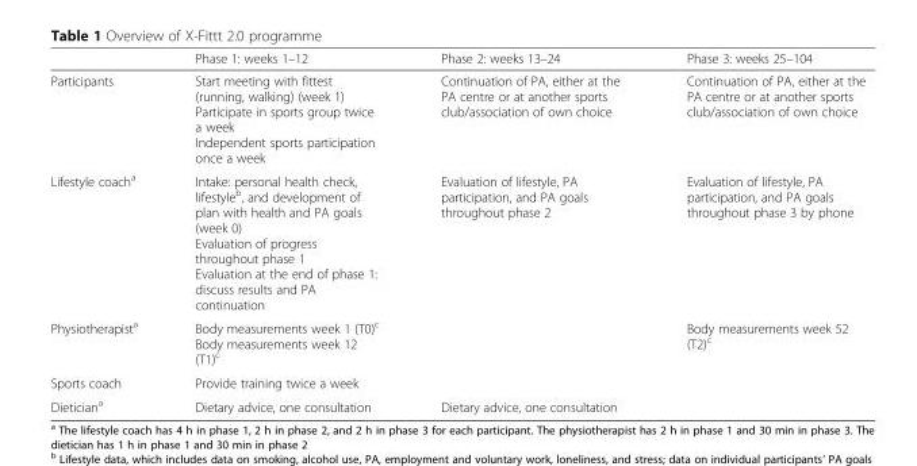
<table><thead><tr><td></td><td>Phase 1: weeks 1–12</td><td>Phase 2: weeks 13–24</td><td>Phase 3: weeks 25–104</td></tr></thead><tbody><tr><td>Participants</td><td>Start meeting with fittest (running, walking) (week 1) Participate in sports group twice a week Independent sports participation once a week</td><td>Continuation of PA, either at the PA centre or at another sports club/association of own choice</td><td>Continuation of PA, either at the PA centre or at another sports club/association of own choice</td></tr><tr><td>Lifestyle coach<sup>a</sup></td><td>Intake: personal health check, lifestyle<sup>b</sup>, and development of plan with health and PA goals (week 0) Evaluation of progress throughout phase 1 Evaluation at the end of phase 1: discuss results and PA continuation</td><td>Evaluation of lifestyle, PA participation, and PA goals throughout phase 2</td><td>Evaluation of lifestyle, PA participation, and PA goals throughout phase 3 by phone</td></tr><tr><td>Physiotherapist<sup>a</sup></td><td>Body measurements week 1 (T0)<sup>c</sup> Body measurements week 12 (T1)<sup>c</sup></td><td></td><td>Body measurements week 52 (T2)<sup>c</sup></td></tr><tr><td>Sports coach</td><td>Provide training twice a week</td><td></td><td></td></tr><tr><td>Dietician<sup>a</sup></td><td>Dietary advice, one consultation</td><td>Dietary advice, one consultation</td><td></td></tr></tbody></table>